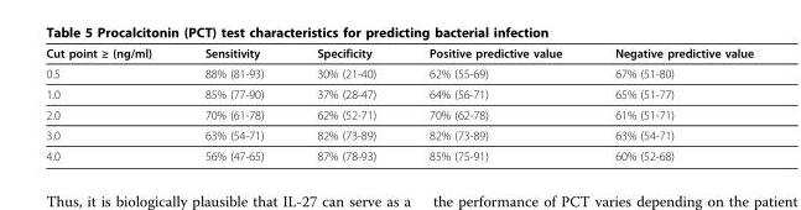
<table><thead><tr><td>Cut point ≥ (ng/ml)</td><td>Sensitivity</td><td>Specificity</td><td>Positive predictive value</td><td>Negative predictive value</td></tr></thead><tbody><tr><td>0.5</td><td>88% (81-93)</td><td>30% (21-40)</td><td>62% (55-69)</td><td>67% (51-80)</td></tr><tr><td>1.0</td><td>85% (77-90)</td><td>37% (28-47)</td><td>64% (56-71)</td><td>65% (51-77)</td></tr><tr><td>2.0</td><td>70% (61-78)</td><td>62% (52-71)</td><td>70% (62-78)</td><td>61% (51-71)</td></tr><tr><td>3.0</td><td>63% (54-71)</td><td>82% (73-89)</td><td>82% (73-89)</td><td>63% (54-71)</td></tr><tr><td>4.0</td><td>56% (47-65)</td><td>87% (78-93)</td><td>85% (75-91)</td><td>60% (52-68)</td></tr></tbody></table>